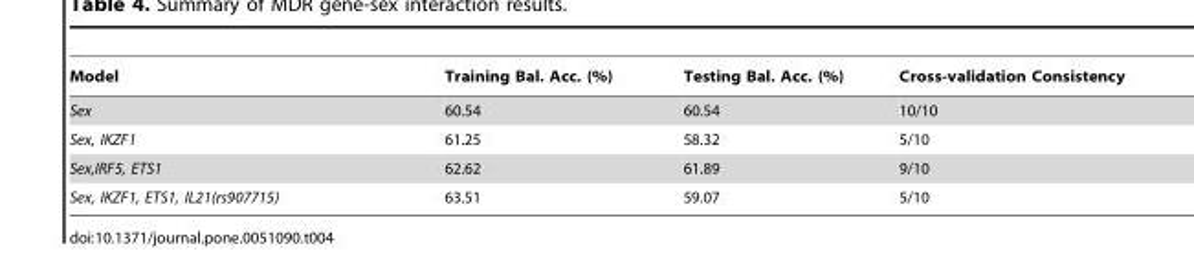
<table><thead><tr><td>Model</td><td>Training Bal. Acc. (%)</td><td>Testing Bal. Acc. (%)</td><td>Cross-validation Consistency</td></tr></thead><tbody><tr><td>Sex</td><td>60.54</td><td>60.54</td><td>10/10</td></tr><tr><td>Sex, IKZF1</td><td>61.25</td><td>58.32</td><td>5/10</td></tr><tr><td>Sex,IRF5, ETS1</td><td>62.62</td><td>61.89</td><td>9/10</td></tr><tr><td>Sex, IKZF1, ETS1, IL21(rs907715)</td><td>63.51</td><td>59.07</td><td>5/10</td></tr></tbody></table>